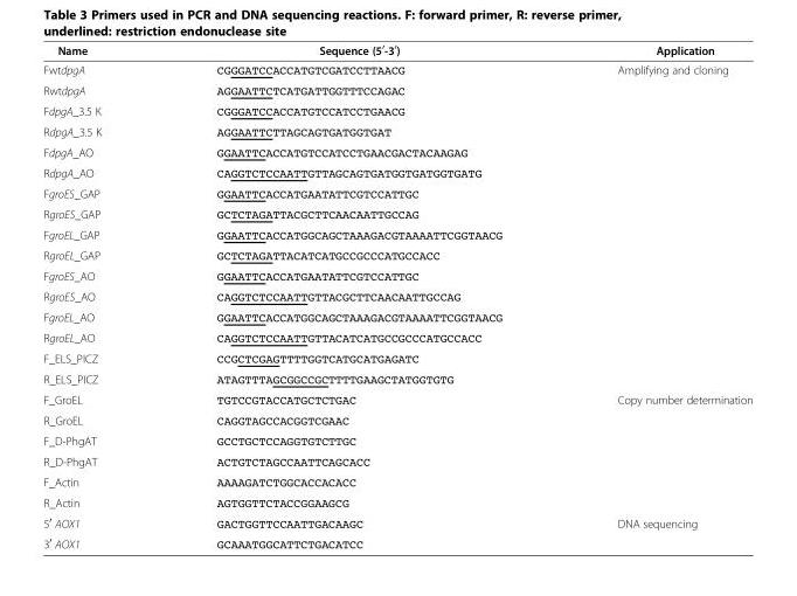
<table><thead><tr><td>Name</td><td>Sequence (5<sup>′</sup>-3<sup>′</sup>)</td><td>Application</td></tr></thead><tbody><tr><td>FwtdpgA</td><td>CGGGATCCACCATGTCGATCCTTAACG</td><td>Amplifying and cloning</td></tr><tr><td>RwtdpgA</td><td>AGGAATTCTCATGATTGGTTTCCAGAC</td><td></td></tr><tr><td>FdpgA_3.5 K</td><td>CGGGATCCACCATGTCCATCCTGAACG</td><td></td></tr><tr><td>RdpgA_3.5 K</td><td>AGGAATTCTTAGCAGTGATGGTGAT</td><td></td></tr><tr><td>FdpgA_AO</td><td>GGAATTCACCATGTCCATCCTGAACGACTACAAGAG</td><td></td></tr><tr><td>RdpgA_AO</td><td>CAGGTCTCCAATTGTTAGCAGTGATGGTGATGGTGATG</td><td></td></tr><tr><td>FgroES_GAP</td><td>GGAATTCACCATGAATATTCGTCCATTGC</td><td></td></tr><tr><td>RgroES_GAP</td><td>GCTCTAGATTACGCTTCAACAATTGCCAG</td><td></td></tr><tr><td>FgroEL_GAP</td><td>GGAATTCACCATGGCAGCTAAAGACGTAAAATTCGGTAACG</td><td></td></tr><tr><td>RgroEL_GAP</td><td>GCTCTAGATTACATCATGCCGCCCATGCCACC</td><td></td></tr><tr><td>FgroES_AO</td><td>GGAATTCACCATGAATATTCGTCCATTGC</td><td></td></tr><tr><td>RgroES_AO</td><td>CAGGTCTCCAATTGTTACGCTTCAACAATTGCCAG</td><td></td></tr><tr><td>FgroEL_AO</td><td>GGAATTCACCATGGCAGCTAAAGACGTAAAATTCGGTAACG</td><td></td></tr><tr><td>RgroEL_AO</td><td>CAGGTCTCCAATTGTTACATCATGCCGCCCATGCCACC</td><td></td></tr><tr><td>F_ELS_PICZ</td><td>CCGCTCGAGTTTTGGTCATGCATGAGATC</td><td></td></tr><tr><td>R_ELS_PICZ</td><td>ATAGTTTAGCGGCCGCTTTTGAAGCTATGGTGTG</td><td></td></tr><tr><td>F_GroEL</td><td>TGTCCGTACCATGCTCTGAC</td><td>Copy number determination</td></tr><tr><td>R_GroEL</td><td>CAGGTAGCCACGGTCGAAC</td><td></td></tr><tr><td>F_D-PhgAT</td><td>GCCTGCTCCAGGTGTCTTGC</td><td></td></tr><tr><td>R_D-PhgAT</td><td>ACTGTCTAGCCAATTCAGCACC</td><td></td></tr><tr><td>F_Actin</td><td>AAAAGATCTGGCACCACACC</td><td></td></tr><tr><td>R_Actin</td><td>AGTGGTTCTACCGGAAGCG</td><td></td></tr><tr><td>5<sup>′</sup> AOX1</td><td>GACTGGTTCCAATTGACAAGC</td><td>DNA sequencing</td></tr><tr><td>3<sup>′</sup> AOX1</td><td>GCAAATGGCATTCTGACATCC</td><td></td></tr></tbody></table>